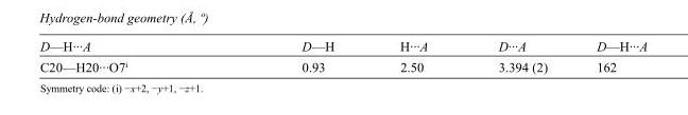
<table><tbody><tr><td>D—H···A</td><td>D—H</td><td>H···A</td><td>D···A</td><td>D—H···A</td></tr><tr><td>C20—H20···O7<sup>i</sup></td><td>0.93</td><td>2.50</td><td>3.394 (2)</td><td>162</td></tr></tbody></table>